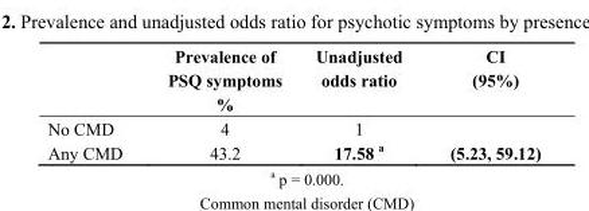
<table><thead><tr><td></td><td>Prevalence of PSQ symptoms %</td><td>Unadjusted odds ratio</td><td>CI (95%)</td></tr></thead><tbody><tr><td>No CMD</td><td>4</td><td>1</td><td></td></tr><tr><td>Any CMD</td><td>43.2</td><td>17.58 <sup>a</sup></td><td>(5.23, 59.12)</td></tr></tbody></table>